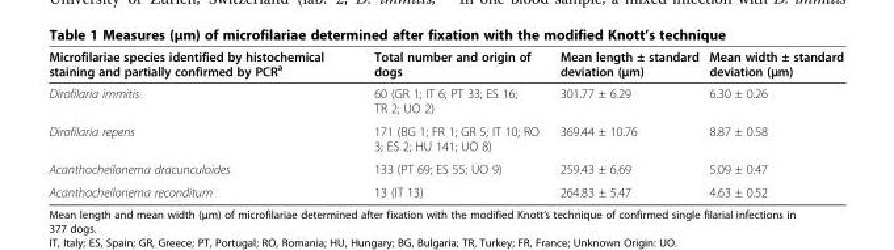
<table><thead><tr><td>Microfilariae species identified by histochemical staining and partially confirmed by PCR<sup>a</sup></td><td>Total number and origin of dogs</td><td>Mean length ± standard deviation (μm)</td><td>Mean width ± standard deviation (μm)</td></tr></thead><tbody><tr><td>Dirofilaria immitis</td><td>60 (GR 1; IT 6; PT 33; ES 16; TR 2; UO 2)</td><td>301.77 ± 6.29</td><td>6.30 ± 0.26</td></tr><tr><td>Dirofilaria repens</td><td>171 (BG 1; FR 1; GR 5; IT 10; RO 3; ES 2; HU 141; UO 8)</td><td>369.44 ± 10.76</td><td>8.87 ± 0.58</td></tr><tr><td>Acanthocheilonema dracunculoides</td><td>133 (PT 69; ES 55; UO 9)</td><td>259.43 ± 6.69</td><td>5.09 ± 0.47</td></tr><tr><td>Acanthocheilonema reconditum</td><td>13 (IT 13)</td><td>264.83 ± 5.47</td><td>4.63 ± 0.52</td></tr></tbody></table>